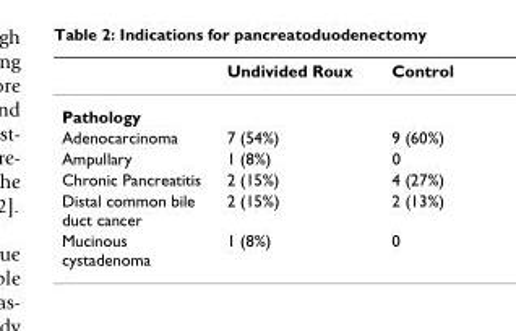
<table><thead><tr><td></td><td>Undivided Roux</td><td>Control</td></tr></thead><tbody><tr><td colspan="3">Pathology</td></tr><tr><td>Adenocarcinoma</td><td>7 (54%)</td><td>9 (60%)</td></tr><tr><td>Ampullary</td><td>1 (8%)</td><td>0</td></tr><tr><td>Chronic Pancreatitis</td><td>2 (15%)</td><td>4 (27%)</td></tr><tr><td>Distal common bile duct cancer</td><td>2 (15%)</td><td>2 (13%)</td></tr><tr><td>Mucinous cystadenoma</td><td>1 (8%)</td><td>0</td></tr></tbody></table>